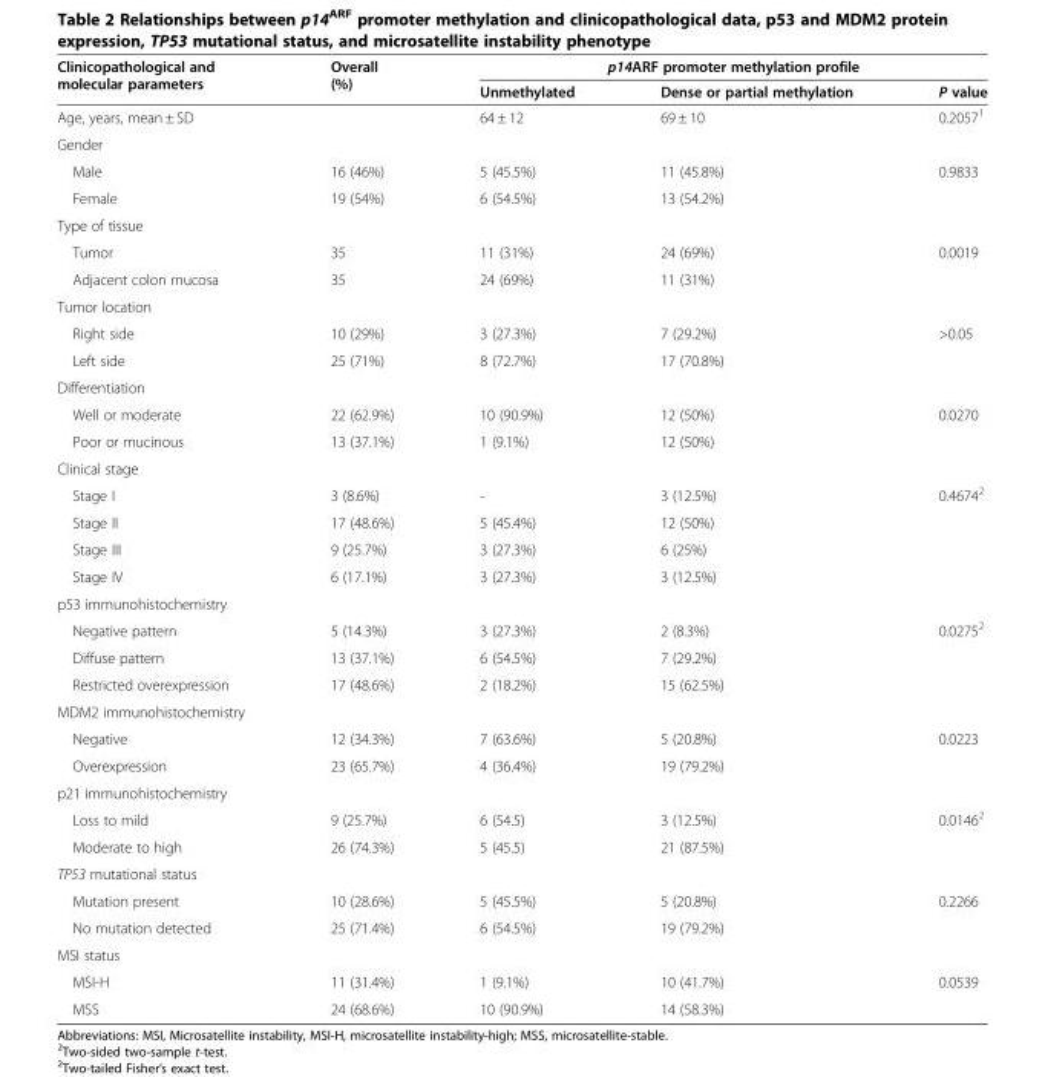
<table><thead><tr><td rowspan="2">Clinicopathological and molecular parameters</td><td rowspan="2">Overall (%)</td><td colspan="3">p14ARF promoter methylation profile</td></tr><tr><td>Unmethylated</td><td>Dense or partial methylation</td><td>P value</td></tr></thead><tbody><tr><td>Age, years, mean ± SD</td><td></td><td>64 ± 12</td><td>69 ± 10</td><td>0.20571</td></tr><tr><td colspan="5">Gender</td></tr><tr><td>Male</td><td>16 (46%)</td><td>5 (45.5%)</td><td>11 (45.8%)</td><td rowspan="2">0.9833</td></tr><tr><td>Female</td><td>19 (54%)</td><td>6 (54.5%)</td><td>13 (54.2%)</td></tr><tr><td colspan="5">Type of tissue</td></tr><tr><td>Tumor</td><td>35</td><td>11 (31%)</td><td>24 (69%)</td><td rowspan="2">0.0019</td></tr><tr><td>Adjacent colon mucosa</td><td>35</td><td>24 (69%)</td><td>11 (31%)</td></tr><tr><td colspan="5">Tumor location</td></tr><tr><td>Right side</td><td>10 (29%)</td><td>3 (27.3%)</td><td>7 (29.2%)</td><td>&gt;0.05</td></tr><tr><td>Left side</td><td>25 (71%)</td><td>8 (72.7%)</td><td>17 (70.8%)</td><td></td></tr><tr><td colspan="5">Differentiation</td></tr><tr><td>Well or moderate</td><td>22 (62.9%)</td><td>10 (90.9%)</td><td>12 (50%)</td><td>0.0270</td></tr><tr><td>Poor or mucinous</td><td>13 (37.1%)</td><td>1 (9.1%)</td><td>12 (50%)</td><td></td></tr><tr><td colspan="5">Clinical stage</td></tr><tr><td>Stage I</td><td>3 (8.6%)</td><td>-</td><td>3 (12.5%)</td><td>0.46742</td></tr><tr><td>Stage II</td><td>17 (48.6%)</td><td>5 (45.4%)</td><td>12 (50%)</td><td></td></tr><tr><td>Stage III</td><td>9 (25.7%)</td><td>3 (27.3%)</td><td>6 (25%)</td><td></td></tr><tr><td>Stage IV</td><td>6 (17.1%)</td><td>3 (27.3%)</td><td>3 (12.5%)</td><td></td></tr><tr><td colspan="5">p53 immunohistochemistry</td></tr><tr><td>Negative pattern</td><td>5 (14.3%)</td><td>3 (27.3%)</td><td>2 (8.3%)</td><td>0.02752</td></tr><tr><td>Diffuse pattern</td><td>13 (37.1%)</td><td>6 (54.5%)</td><td>7 (29.2%)</td><td></td></tr><tr><td>Restricted overexpression</td><td>17 (48.6%)</td><td>2 (18.2%)</td><td>15 (62.5%)</td><td></td></tr><tr><td colspan="5">MDM2 immunohistochemistry</td></tr><tr><td>Negative</td><td>12 (34.3%)</td><td>7 (63.6%)</td><td>5 (20.8%)</td><td>0.0223</td></tr><tr><td>Overexpression</td><td>23 (65.7%)</td><td>4 (36.4%)</td><td>19 (79.2%)</td><td></td></tr><tr><td colspan="5">p21 immunohistochemistry</td></tr><tr><td>Loss to mild</td><td>9 (25.7%)</td><td>6 (54.5)</td><td>3 (12.5%)</td><td>0.01462</td></tr><tr><td>Moderate to high</td><td>26 (74.3%)</td><td>5 (45.5)</td><td>21 (87.5%)</td><td></td></tr><tr><td colspan="5">TP53 mutational status</td></tr><tr><td>Mutation present</td><td>10 (28.6%)</td><td>5 (45.5%)</td><td>5 (20.8%)</td><td>0.2266</td></tr><tr><td>No mutation detected</td><td>25 (71.4%)</td><td>6 (54.5%)</td><td>19 (79.2%)</td><td></td></tr><tr><td colspan="5">MSI status</td></tr><tr><td>MSI-H</td><td>11 (31.4%)</td><td>1 (9.1%)</td><td>10 (41.7%)</td><td>0.0539</td></tr><tr><td>MSS</td><td>24 (68.6%)</td><td>10 (90.9%)</td><td>14 (58.3%)</td><td></td></tr></tbody></table>